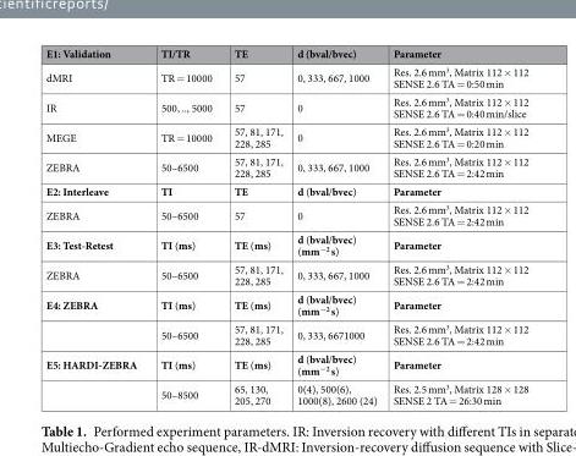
<table><thead><tr><td>E1: Validation</td><td>TI/TR</td><td>TE</td><td>d (bval/bvec)</td><td>Parameter</td></tr></thead><tbody><tr><td>dMRI</td><td>TR = 10000</td><td>57</td><td>0, 333, 667, 1000</td><td>Res. 2.6 mm<sup>3</sup>, Matrix 112 × 112 SENSE 2.6 TA = 0:50 min</td></tr><tr><td>IR</td><td>500, .., 5000</td><td>57</td><td>0</td><td>Res. 2.6 mm<sup>3</sup>, Matrix 112 × 112 SENSE 2.6 TA = 0:40 min/slice</td></tr><tr><td>MEGE</td><td>TR = 10000</td><td>57, 81, 171, 228, 285</td><td>0</td><td>Res. 2.6 mm<sup>3</sup>, Matrix 112 × 112 SENSE 2.6 TA = 0:20 min</td></tr><tr><td>ZEBRA</td><td>50–6500</td><td>57, 81, 171, 228, 285</td><td>0, 333, 667, 1000</td><td>Res. 2.6 mm<sup>3</sup>, Matrix 112 × 112 SENSE 2.6 TA = 2:42 min</td></tr><tr><td>E2: Interleave</td><td>TI</td><td>TE</td><td>d (bval/bvec)</td><td>Parameter</td></tr><tr><td>ZEBRA</td><td>50–6500</td><td>57</td><td>0</td><td>Res. 2.6 mm<sup>3</sup>, Matrix 112 × 112 SENSE 2.6 TA = 2:42 min</td></tr><tr><td>E3: Test-Retest</td><td>TI (ms)</td><td>TE (ms)</td><td>d (bval/bvec) (mm<sup>−2</sup> s)</td><td>Parameter</td></tr><tr><td>ZEBRA</td><td>50–6500</td><td>57, 81, 171, 228, 285</td><td>0, 333, 667, 1000</td><td>Res. 2.6 mm<sup>3</sup>, Matrix 112 × 112 SENSE 2.6 TA = 2:42 min</td></tr><tr><td rowspan="2">E4: ZEBRA</td><td>TI (ms)</td><td>TE (ms)</td><td>d (bval/bvec) (mm<sup>−2</sup> s)</td><td>Parameter</td></tr><tr><td>50–6500</td><td>57, 81, 171, 228, 285</td><td>0, 333, 6671000</td><td>Res. 2.6 mm<sup>3</sup>, Matrix 112 × 112 SENSE 2.6 TA = 2:42 min</td></tr><tr><td rowspan="2">E5: HARDI-ZEBRA</td><td>TI (ms)</td><td>TE (ms)</td><td>d (bval/bvec) (mm<sup>−2</sup> s)</td><td>Parameter</td></tr><tr><td>50–8500</td><td>65, 130, 205, 270</td><td>0(4), 500(6), 1000(8), 2600 (24)</td><td>Res. 2.5 mm<sup>3</sup>, Matrix 128 × 128 SENSE 2 TA = 26:30 min</td></tr></tbody></table>